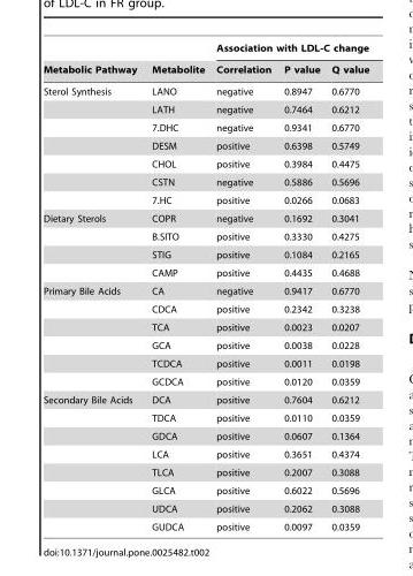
<table><thead><tr><td rowspan="2">Metabolic Pathway</td><td rowspan="2">Metabolite</td><td colspan="3">Association with LDL-C change</td></tr><tr><td>Correlation</td><td>P value</td><td>Q value</td></tr></thead><tbody><tr><td rowspan="7">Sterol Synthesis</td><td>LANO</td><td>negative</td><td>0.8947</td><td>0.6770</td></tr><tr><td>LATH</td><td>negative</td><td>0.7464</td><td>0.6212</td></tr><tr><td>7.DHC</td><td>negative</td><td>0.9341</td><td>0.6770</td></tr><tr><td>DESM</td><td>positive</td><td>0.6398</td><td>0.5749</td></tr><tr><td>CHOL</td><td>positive</td><td>0.3984</td><td>0.4475</td></tr><tr><td>CSTN</td><td>negative</td><td>0.5886</td><td>0.5696</td></tr><tr><td>7.HC</td><td>positive</td><td>0.0266</td><td>0.0683</td></tr><tr><td rowspan="4">Dietary Sterols</td><td>COPR</td><td>negative</td><td>0.1692</td><td>0.3041</td></tr><tr><td>B.SITO</td><td>positive</td><td>0.3330</td><td>0.4275</td></tr><tr><td>STIG</td><td>positive</td><td>0.1084</td><td>0.2165</td></tr><tr><td>CAMP</td><td>positive</td><td>0.4435</td><td>0.4688</td></tr><tr><td rowspan="6">Primary Bile Acids</td><td>CA</td><td>negative</td><td>0.9417</td><td>0.6770</td></tr><tr><td>CDCA</td><td>positive</td><td>0.2342</td><td>0.3238</td></tr><tr><td>TCA</td><td>positive</td><td>0.0023</td><td>0.0207</td></tr><tr><td>GCA</td><td>positive</td><td>0.0038</td><td>0.0228</td></tr><tr><td>TCDCA</td><td>positive</td><td>0.0011</td><td>0.0198</td></tr><tr><td>GCDCA</td><td>positive</td><td>0.0120</td><td>0.0359</td></tr><tr><td rowspan="8">Secondary Bile Acids</td><td>DCA</td><td>positive</td><td>0.7604</td><td>0.6212</td></tr><tr><td>TDCA</td><td>positive</td><td>0.0110</td><td>0.0359</td></tr><tr><td>GDCA</td><td>positive</td><td>0.0607</td><td>0.1364</td></tr><tr><td>LCA</td><td>positive</td><td>0.3651</td><td>0.4374</td></tr><tr><td>TLCA</td><td>positive</td><td>0.2007</td><td>0.3088</td></tr><tr><td>GLCA</td><td>positive</td><td>0.6022</td><td>0.5696</td></tr><tr><td>UDCA</td><td>positive</td><td>0.2062</td><td>0.3088</td></tr><tr><td>GUDCA</td><td>positive</td><td>0.0097</td><td>0.0359</td></tr></tbody></table>